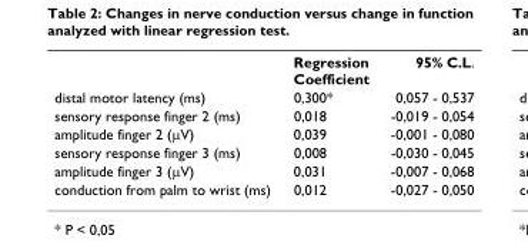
<table><thead><tr><td></td><td>Regression Coefficient</td><td>95% C.L.</td></tr></thead><tbody><tr><td>distal motor latency (ms)</td><td>0,300*</td><td>0,057 - 0,537</td></tr><tr><td>sensory response finger 2 (ms)</td><td>0,018</td><td>-0,019 - 0,054</td></tr><tr><td>amplitude finger 2 (μV)</td><td>0,039</td><td>-0,001 - 0,080</td></tr><tr><td>sensory response finger 3 (ms)</td><td>0,008</td><td>-0,030 - 0,045</td></tr><tr><td>amplitude finger 3 (μV)</td><td>0,031</td><td>-0,007 - 0,068</td></tr><tr><td>conduction from palm to wrist (ms)</td><td>0,012</td><td>-0,027 - 0,050</td></tr></tbody></table>